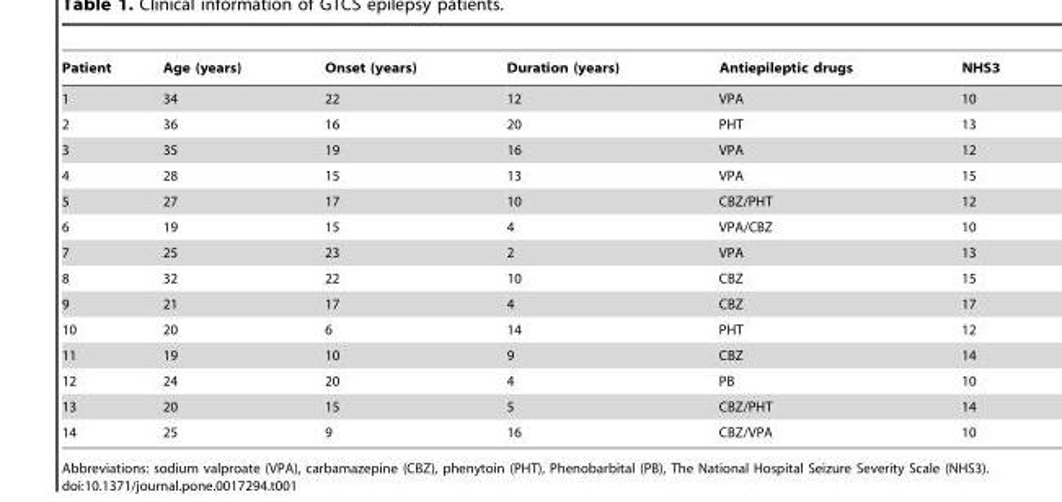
<table><thead><tr><td>Patient</td><td>Age (years)</td><td>Onset (years)</td><td>Duration (years)</td><td>Antiepileptic drugs</td><td>NHS3</td></tr></thead><tbody><tr><td>1</td><td>34</td><td>22</td><td>12</td><td>VPA</td><td>10</td></tr><tr><td>2</td><td>36</td><td>16</td><td>20</td><td>PHT</td><td>13</td></tr><tr><td>3</td><td>35</td><td>19</td><td>16</td><td>VPA</td><td>12</td></tr><tr><td>4</td><td>28</td><td>15</td><td>13</td><td>VPA</td><td>15</td></tr><tr><td>5</td><td>27</td><td>17</td><td>10</td><td>CBZ/PHT</td><td>12</td></tr><tr><td>6</td><td>19</td><td>15</td><td>4</td><td>VPA/CBZ</td><td>10</td></tr><tr><td>7</td><td>25</td><td>23</td><td>2</td><td>VPA</td><td>13</td></tr><tr><td>8</td><td>32</td><td>22</td><td>10</td><td>CBZ</td><td>15</td></tr><tr><td>9</td><td>21</td><td>17</td><td>4</td><td>CBZ</td><td>17</td></tr><tr><td>10</td><td>20</td><td>6</td><td>14</td><td>PHT</td><td>12</td></tr><tr><td>11</td><td>19</td><td>10</td><td>9</td><td>CBZ</td><td>14</td></tr><tr><td>12</td><td>24</td><td>20</td><td>4</td><td>PB</td><td>10</td></tr><tr><td>13</td><td>20</td><td>15</td><td>5</td><td>CBZ/PHT</td><td>14</td></tr><tr><td>14</td><td>25</td><td>9</td><td>16</td><td>CBZ/VPA</td><td>10</td></tr></tbody></table>